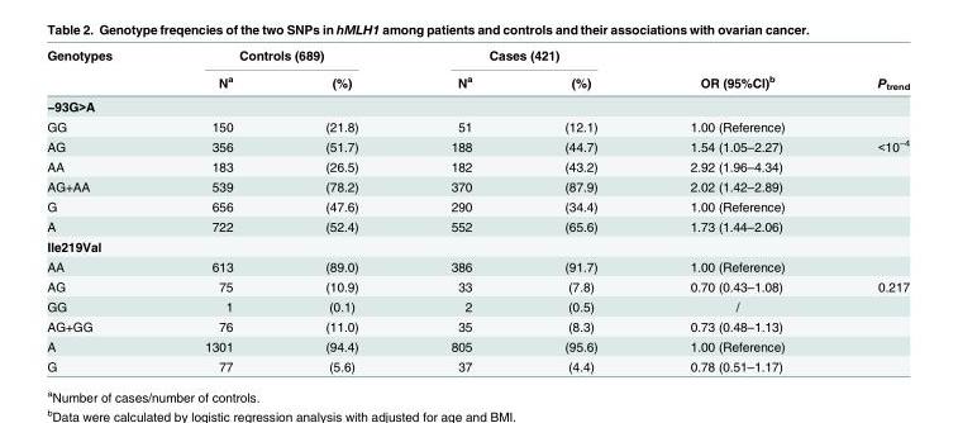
<table><thead><tr><td rowspan="2">Genotypes</td><td colspan="2">Controls (689)</td><td colspan="2">Cases (421)</td><td rowspan="2">OR (95%CI)<sup>b</sup></td><td rowspan="2">P<sub>trend</sub></td></tr><tr><td>N<sup>a</sup></td><td>(%)</td><td>N<sup>a</sup></td><td>(%)</td></tr></thead><tbody><tr><td colspan="7">−93G&gt;A</td></tr><tr><td>GG</td><td>150</td><td>(21.8)</td><td>51</td><td>(12.1)</td><td>1.00 (Reference)</td><td></td></tr><tr><td>AG</td><td>356</td><td>(51.7)</td><td>188</td><td>(44.7)</td><td>1.54 (1.05–2.27)</td><td>&lt;10<sup>−4</sup></td></tr><tr><td>AA</td><td>183</td><td>(26.5)</td><td>182</td><td>(43.2)</td><td>2.92 (1.96–4.34)</td><td></td></tr><tr><td>AG+AA</td><td>539</td><td>(78.2)</td><td>370</td><td>(87.9)</td><td>2.02 (1.42–2.89)</td><td></td></tr><tr><td>G</td><td>656</td><td>(47.6)</td><td>290</td><td>(34.4)</td><td>1.00 (Reference)</td><td></td></tr><tr><td>A</td><td>722</td><td>(52.4)</td><td>552</td><td>(65.6)</td><td>1.73 (1.44–2.06)</td><td></td></tr><tr><td colspan="7">Ile219Val</td></tr><tr><td>AA</td><td>613</td><td>(89.0)</td><td>386</td><td>(91.7)</td><td>1.00 (Reference)</td><td></td></tr><tr><td>AG</td><td>75</td><td>(10.9)</td><td>33</td><td>(7.8)</td><td>0.70 (0.43–1.08)</td><td>0.217</td></tr><tr><td>GG</td><td>1</td><td>(0.1)</td><td>2</td><td>(0.5)</td><td>/</td><td></td></tr><tr><td>AG+GG</td><td>76</td><td>(11.0)</td><td>35</td><td>(8.3)</td><td>0.73 (0.48–1.13)</td><td></td></tr><tr><td>A</td><td>1301</td><td>(94.4)</td><td>805</td><td>(95.6)</td><td>1.00 (Reference)</td><td></td></tr><tr><td>G</td><td>77</td><td>(5.6)</td><td>37</td><td>(4.4)</td><td>0.78 (0.51–1.17)</td><td></td></tr></tbody></table>